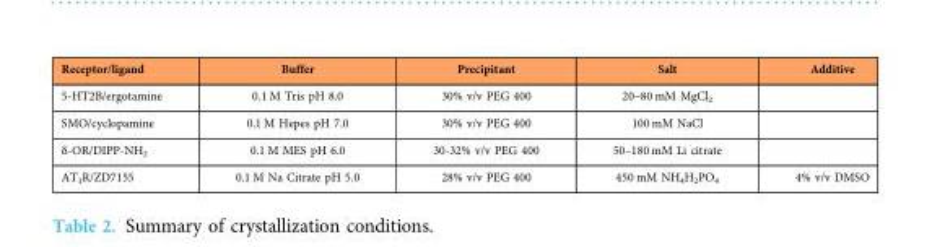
<table><thead><tr><td>Receptor/ligand</td><td>Buffer</td><td>Precipitant</td><td>Salt</td><td>Additive</td></tr></thead><tbody><tr><td>5-HT2B/ergotamine</td><td>0.1 M Tris pH 8.0</td><td>30% v/v PEG 400</td><td>20–80 mM MgCl<sub>2</sub></td><td></td></tr><tr><td>SMO/cyclopamine</td><td>0.1 M Hepes pH 7.0</td><td>30% v/v PEG 400</td><td>100 mM NaCl</td><td></td></tr><tr><td>δ-OR/DIPP-NH<sub>2</sub></td><td>0.1 M MES pH 6.0</td><td>30-32% v/v PEG 400</td><td>50–180 mM Li citrate</td><td></td></tr><tr><td>AT<sub>1</sub>R/ZD7155</td><td>0.1 M Na Citrate pH 5.0</td><td>28% v/v PEG 400</td><td>450 mM NH<sub>4</sub>H<sub>2</sub>PO<sub>4</sub></td><td>4% v/v DMSO</td></tr></tbody></table>